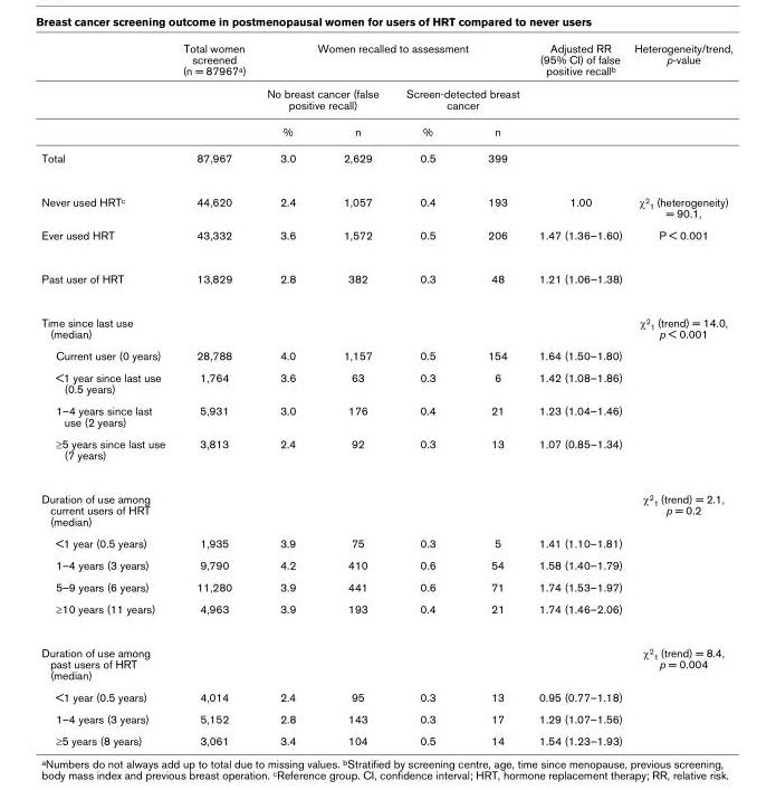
<table><thead><tr><td rowspan="3"></td><td rowspan="3">Total women screened (n = 87967a)</td><td colspan="4">Women recalled to assessment</td><td rowspan="3">Adjusted RR (95% CI) of false positive recallb</td><td rowspan="3">Heterogeneity/trend, p-value</td></tr><tr><td colspan="2">No breast cancer (false positive recall)</td><td colspan="2">Screen-detected breast cancer</td></tr><tr><td>%</td><td>n</td><td>%</td><td>n</td></tr></thead><tbody><tr><td>Total</td><td>87,967</td><td>3.0</td><td>2,629</td><td>0.5</td><td>399</td><td></td><td></td></tr><tr><td>Never used HRTc</td><td>44,620</td><td>2.4</td><td>1,057</td><td>0.4</td><td>193</td><td>1.00</td><td>χ21 (heterogeneity) = 90.1,</td></tr><tr><td>Ever used HRT</td><td>43,332</td><td>3.6</td><td>1,572</td><td>0.5</td><td>206</td><td>1.47 (1.36–1.60)</td><td>P &lt; 0.001</td></tr><tr><td>Past user of HRT</td><td>13,829</td><td>2.8</td><td>382</td><td>0.3</td><td>48</td><td>1.21 (1.06–1.38)</td><td></td></tr><tr><td>Time since last use (median)</td><td></td><td></td><td></td><td></td><td></td><td></td><td>χ21 (trend) = 14.0, p &lt; 0.001</td></tr><tr><td>Current user (0 years)</td><td>28,788</td><td>4.0</td><td>1,157</td><td>0.5</td><td>154</td><td>1.64 (1.50–1.80)</td><td></td></tr><tr><td>&lt;1 year since last use (0.5 years)</td><td>1,764</td><td>3.6</td><td>63</td><td>0.3</td><td>6</td><td>1.42 (1.08–1.86)</td><td></td></tr><tr><td>1–4 years since last use (2 years)</td><td>5,931</td><td>3.0</td><td>176</td><td>0.4</td><td>21</td><td>1.23 (1.04–1.46)</td><td></td></tr><tr><td>≥5 years since last use (7 years)</td><td>3,813</td><td>2.4</td><td>92</td><td>0.3</td><td>13</td><td>1.07 (0.85–1.34)</td><td></td></tr><tr><td>Duration of use among current users of HRT (median)</td><td></td><td></td><td></td><td></td><td></td><td></td><td>χ21 (trend) = 2.1, p = 0.2</td></tr><tr><td>&lt;1 year (0.5 years)</td><td>1,935</td><td>3.9</td><td>75</td><td>0.3</td><td>5</td><td>1.41 (1.10–1.81)</td><td></td></tr><tr><td>1–4 years (3 years)</td><td>9,790</td><td>4.2</td><td>410</td><td>0.6</td><td>54</td><td>1.58 (1.40–1.79)</td><td></td></tr><tr><td>5–9 years (6 years)</td><td>11,280</td><td>3.9</td><td>441</td><td>0.6</td><td>71</td><td>1.74 (1.53–1.97)</td><td></td></tr><tr><td>≥10 years (11 years)</td><td>4,963</td><td>3.9</td><td>193</td><td>0.4</td><td>21</td><td>1.74 (1.46–2.06)</td><td></td></tr><tr><td>Duration of use among past users of HRT (median)</td><td></td><td></td><td></td><td></td><td></td><td></td><td>χ21 (trend) = 8.4, p = 0.004</td></tr><tr><td>&lt;1 year (0.5 years)</td><td>4,014</td><td>2.4</td><td>95</td><td>0.3</td><td>13</td><td>0.95 (0.77–1.18)</td><td></td></tr><tr><td>1–4 years (3 years)</td><td>5,152</td><td>2.8</td><td>143</td><td>0.3</td><td>17</td><td>1.29 (1.07–1.56)</td><td></td></tr><tr><td>≥5 years (8 years)</td><td>3,061</td><td>3.4</td><td>104</td><td>0.5</td><td>14</td><td>1.54 (1.23–1.93)</td><td></td></tr></tbody></table>